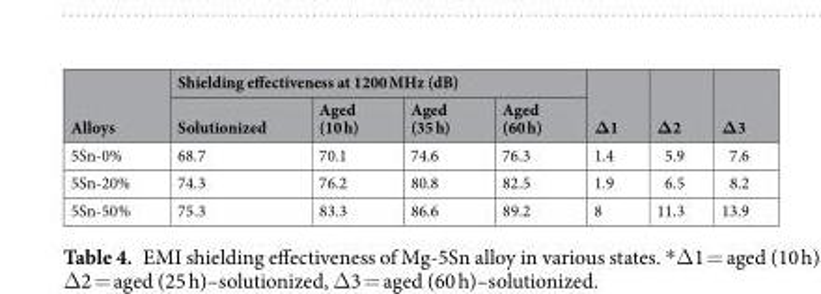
<table><thead><tr><td rowspan="2">Alloys</td><td colspan="4">Shielding effectiveness at 1200 MHz (dB)</td><td rowspan="2">Δ1</td><td rowspan="2">Δ2</td><td rowspan="2">Δ3</td></tr><tr><td>Solutionized</td><td>Aged (10 h)</td><td>Aged (35 h)</td><td>Aged (60 h)</td></tr></thead><tbody><tr><td>5Sn-0%</td><td>68.7</td><td>70.1</td><td>74.6</td><td>76.3</td><td>1.4</td><td>5.9</td><td>7.6</td></tr><tr><td>5Sn-20%</td><td>74.3</td><td>76.2</td><td>80.8</td><td>82.5</td><td>1.9</td><td>6.5</td><td>8.2</td></tr><tr><td>5Sn-50%</td><td>75.3</td><td>83.3</td><td>86.6</td><td>89.2</td><td>8</td><td>11.3</td><td>13.9</td></tr></tbody></table>